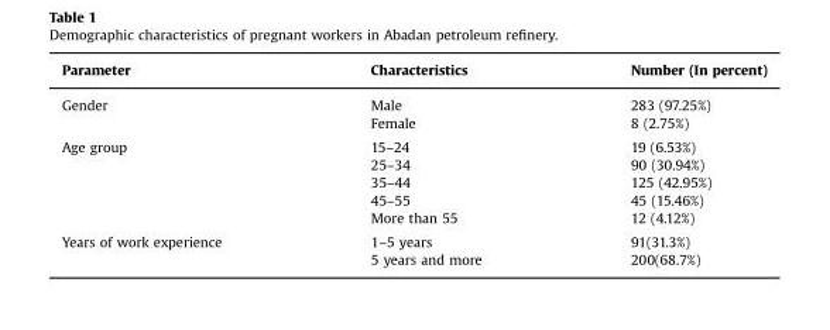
<table><thead><tr><td>Parameter</td><td>Characteristics</td><td>Number (In percent)</td></tr></thead><tbody><tr><td rowspan="2">Gender</td><td>Male</td><td>283 (97.25%)</td></tr><tr><td>Female</td><td>8 (2.75%)</td></tr><tr><td rowspan="5">Age group</td><td>15–24</td><td>19 (6.53%)</td></tr><tr><td>25–34</td><td>90 (30.94%)</td></tr><tr><td>35–44</td><td>125 (42.95%)</td></tr><tr><td>45–55</td><td>45 (15.46%)</td></tr><tr><td>More than 55</td><td>12 (4.12%)</td></tr><tr><td rowspan="2">Years of work experience</td><td>1–5 years</td><td>91(31.3%)</td></tr><tr><td>5 years and more</td><td>200(68.7%)</td></tr></tbody></table>